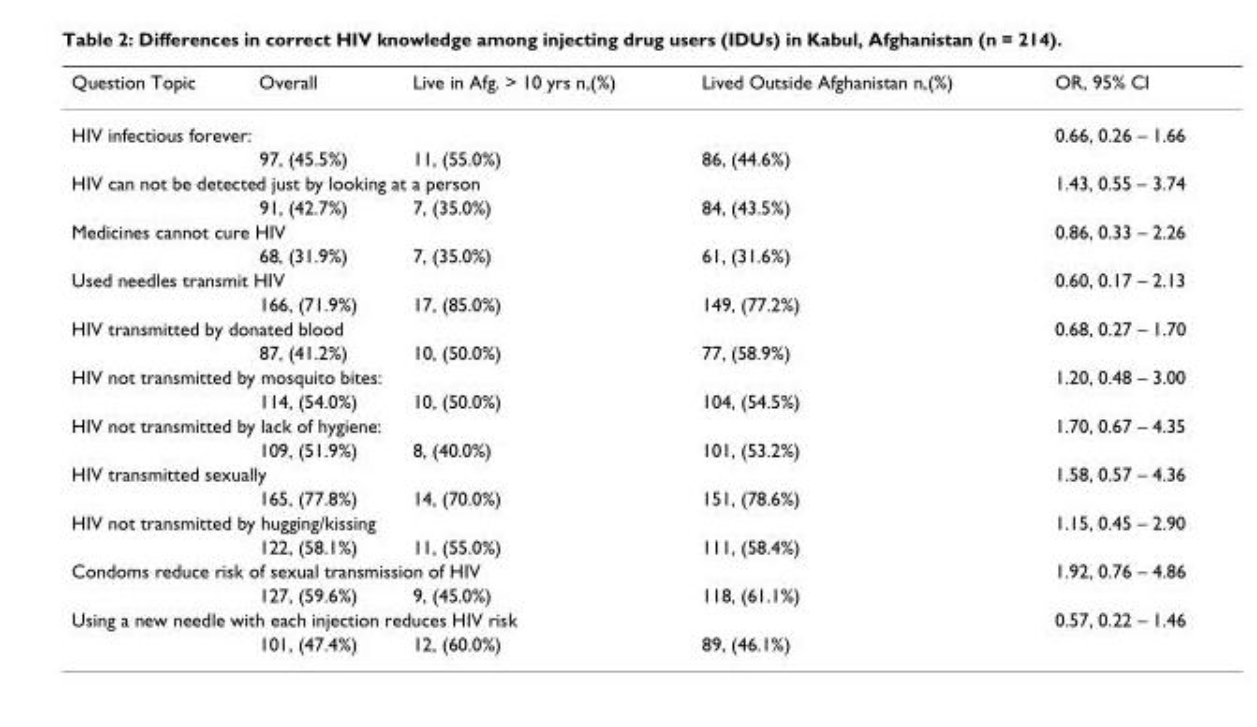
<table><thead><tr><td>Question Topic</td><td>Overall</td><td>Live in Afg. &gt; 10 yrs n,(%)</td><td>Lived Outside Afghanistan n,(%)</td><td>OR, 95% CI</td></tr></thead><tbody><tr><td colspan="4">HIV infectious forever:</td><td>0.66, 0.26 – 1.66</td></tr><tr><td></td><td>97, (45.5%)</td><td>11, (55.0%)</td><td>86, (44.6%)</td><td></td></tr><tr><td colspan="4">HIV can not be detected just by looking at a person</td><td>1.43, 0.55 – 3.74</td></tr><tr><td></td><td>91, (42.7%)</td><td>7, (35.0%)</td><td>84, (43.5%)</td><td></td></tr><tr><td colspan="4">Medicines cannot cure HIV</td><td>0.86, 0.33 – 2.26</td></tr><tr><td></td><td>68, (31.9%)</td><td>7, (35.0%)</td><td>61, (31.6%)</td><td></td></tr><tr><td colspan="4">Used needles transmit HIV</td><td>0.60, 0.17 – 2.13</td></tr><tr><td></td><td>166, (71.9%)</td><td>17, (85.0%)</td><td>149, (77.2%)</td><td></td></tr><tr><td colspan="4">HIV transmitted by donated blood</td><td>0.68, 0.27 – 1.70</td></tr><tr><td></td><td>87, (41.2%)</td><td>10, (50.0%)</td><td>77, (58.9%)</td><td></td></tr><tr><td colspan="4">HIV not transmitted by mosquito bites:</td><td>1.20, 0.48 – 3.00</td></tr><tr><td></td><td>114, (54.0%)</td><td>10, (50.0%)</td><td>104, (54.5%)</td><td></td></tr><tr><td colspan="4">HIV not transmitted by lack of hygiene:</td><td>1.70, 0.67 – 4.35</td></tr><tr><td></td><td>109, (51.9%)</td><td>8, (40.0%)</td><td>101, (53.2%)</td><td></td></tr><tr><td colspan="4">HIV transmitted sexually</td><td>1.58, 0.57 – 4.36</td></tr><tr><td></td><td>165, (77.8%)</td><td>14, (70.0%)</td><td>151, (78.6%)</td><td></td></tr><tr><td colspan="4">HIV not transmitted by hugging/kissing</td><td>1.15, 0.45 – 2.90</td></tr><tr><td></td><td>122, (58.1%)</td><td>11, (55.0%)</td><td>111, (58.4%)</td><td></td></tr><tr><td colspan="4">Condoms reduce risk of sexual transmission of HIV</td><td>1.92, 0.76 – 4.86</td></tr><tr><td></td><td>127, (59.6%)</td><td>9, (45.0%)</td><td>118, (61.1%)</td><td></td></tr><tr><td colspan="4">Using a new needle with each injection reduces HIV risk</td><td>0.57, 0.22 – 1.46</td></tr><tr><td></td><td>101, (47.4%)</td><td>12, (60.0%)</td><td>89, (46.1%)</td><td></td></tr></tbody></table>